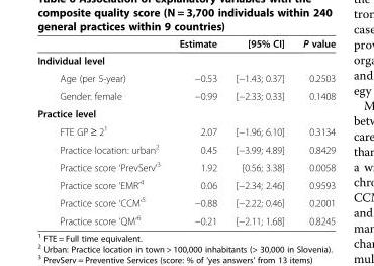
<table><thead><tr><td></td><td>Estimate</td><td>[95% CI]</td><td>P value</td></tr></thead><tbody><tr><td colspan="4">Individual level</td></tr><tr><td>Age (per 5-year)</td><td>−0.53</td><td>[−1.43; 0.37]</td><td>0.2503</td></tr><tr><td>Gender: female</td><td>−0.99</td><td>[−2.33; 0.33]</td><td>0.1408</td></tr><tr><td colspan="4">Practice level</td></tr><tr><td>FTE GP ≥ 2<sup>1</sup></td><td>2.07</td><td>[−1.96; 6.10]</td><td>0.3134</td></tr><tr><td>Practice location: urban<sup>2</sup></td><td>0.45</td><td>[−3.99; 4.89]</td><td>0.8429</td></tr><tr><td>Practice score ‘PrevServ’<sup>3</sup></td><td>1.92</td><td>[0.56; 3.38]</td><td>0.0058</td></tr><tr><td>Practice score ‘EMR’<sup>4</sup></td><td>0.06</td><td>[−2.34; 2.46]</td><td>0.9593</td></tr><tr><td>Practice score ‘CCM’<sup>5</sup></td><td>−0.88</td><td>[−2.22; 0.46]</td><td>0.2001</td></tr><tr><td>Practice score ‘QM’<sup>6</sup></td><td>−0.21</td><td>[−2.11; 1.68]</td><td>0.8245</td></tr></tbody></table>